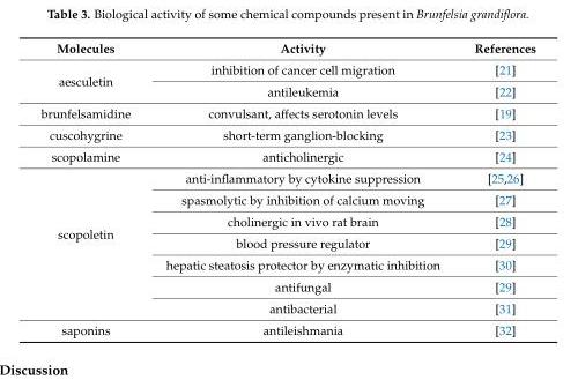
<table><thead><tr><td>Molecules</td><td>Activity</td><td>References</td></tr></thead><tbody><tr><td rowspan="2">aesculetin</td><td>inhibition of cancer cell migration</td><td>[21]</td></tr><tr><td>antileukemia</td><td>[22]</td></tr><tr><td>brunfelsamidine</td><td>convulsant, affects serotonin levels</td><td>[19]</td></tr><tr><td>cuscohygrine</td><td>short-term ganglion-blocking</td><td>[23]</td></tr><tr><td>scopolamine</td><td>anticholinergic</td><td>[24]</td></tr><tr><td rowspan="7">scopoletin</td><td>anti-inflammatory by cytokine suppression</td><td>[25,26]</td></tr><tr><td>spasmolytic by inhibition of calcium moving</td><td>[27]</td></tr><tr><td>cholinergic in vivo rat brain</td><td>[28]</td></tr><tr><td>blood pressure regulator</td><td>[29]</td></tr><tr><td>hepatic steatosis protector by enzymatic inhibition</td><td>[30]</td></tr><tr><td>antifungal</td><td>[29]</td></tr><tr><td>antibacterial</td><td>[31]</td></tr><tr><td>saponins</td><td>antileishmania</td><td>[32]</td></tr></tbody></table>